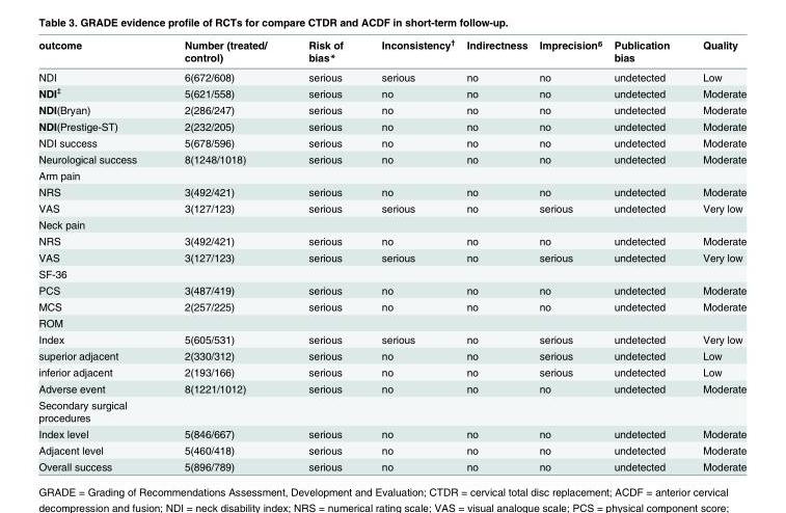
<table><thead><tr><td>outcome</td><td>Number (treated/ control)</td><td>Risk of bias*</td><td>Inconsistency†</td><td>Indirectness</td><td>Imprecision<sup>ᵷ</sup></td><td>Publication bias</td><td>Quality</td></tr></thead><tbody><tr><td>NDI</td><td>6(672/608)</td><td>serious</td><td>serious</td><td>no</td><td>no</td><td>undetected</td><td>Low</td></tr><tr><td>NDI<sup>‡</sup></td><td>5(621/558)</td><td>serious</td><td>no</td><td>no</td><td>no</td><td>undetected</td><td>Moderate</td></tr><tr><td>NDI(Bryan)</td><td>2(286/247)</td><td>serious</td><td>no</td><td>no</td><td>no</td><td>undetected</td><td>Moderate</td></tr><tr><td>NDI(Prestige-ST)</td><td>2(232/205)</td><td>serious</td><td>no</td><td>no</td><td>no</td><td>undetected</td><td>Moderate</td></tr><tr><td>NDI success</td><td>5(678/596)</td><td>serious</td><td>no</td><td>no</td><td>no</td><td>undetected</td><td>Moderate</td></tr><tr><td>Neurological success</td><td>8(1248/1018)</td><td>serious</td><td>no</td><td>no</td><td>no</td><td>undetected</td><td>Moderate</td></tr><tr><td colspan="8">Arm pain</td></tr><tr><td>NRS</td><td>3(492/421)</td><td>serious</td><td>no</td><td>no</td><td>no</td><td>undetected</td><td>Moderate</td></tr><tr><td>VAS</td><td>3(127/123)</td><td>serious</td><td>serious</td><td>no</td><td>serious</td><td>undetected</td><td>Very low</td></tr><tr><td colspan="8">Neck pain</td></tr><tr><td>NRS</td><td>3(492/421)</td><td>serious</td><td>no</td><td>no</td><td>no</td><td>undetected</td><td>Moderate</td></tr><tr><td>VAS</td><td>3(127/123)</td><td>serious</td><td>serious</td><td>no</td><td>serious</td><td>undetected</td><td>Very low</td></tr><tr><td colspan="8">SF-36</td></tr><tr><td>PCS</td><td>3(487/419)</td><td>serious</td><td>no</td><td>no</td><td>no</td><td>undetected</td><td>Moderate</td></tr><tr><td>MCS</td><td>2(257/225)</td><td>serious</td><td>no</td><td>no</td><td>no</td><td>undetected</td><td>Moderate</td></tr><tr><td colspan="8">ROM</td></tr><tr><td>Index</td><td>5(605/531)</td><td>serious</td><td>serious</td><td>no</td><td>serious</td><td>undetected</td><td>Very low</td></tr><tr><td>superior adjacent</td><td>2(330/312)</td><td>serious</td><td>no</td><td>no</td><td>serious</td><td>undetected</td><td>Low</td></tr><tr><td>inferior adjacent</td><td>2(193/166)</td><td>serious</td><td>no</td><td>no</td><td>serious</td><td>undetected</td><td>Low</td></tr><tr><td>Adverse event</td><td>8(1221/1012)</td><td>serious</td><td>no</td><td>no</td><td>no</td><td>undetected</td><td>Moderate</td></tr><tr><td colspan="8">Secondary surgical procedures</td></tr><tr><td>Index level</td><td>5(846/667)</td><td>serious</td><td>no</td><td>no</td><td>no</td><td>undetected</td><td>Moderate</td></tr><tr><td>Adjacent level</td><td>5(460/418)</td><td>serious</td><td>no</td><td>no</td><td>no</td><td>undetected</td><td>Moderate</td></tr><tr><td>Overall success</td><td>5(896/789)</td><td>serious</td><td>no</td><td>no</td><td>no</td><td>undetected</td><td>Moderate</td></tr></tbody></table>